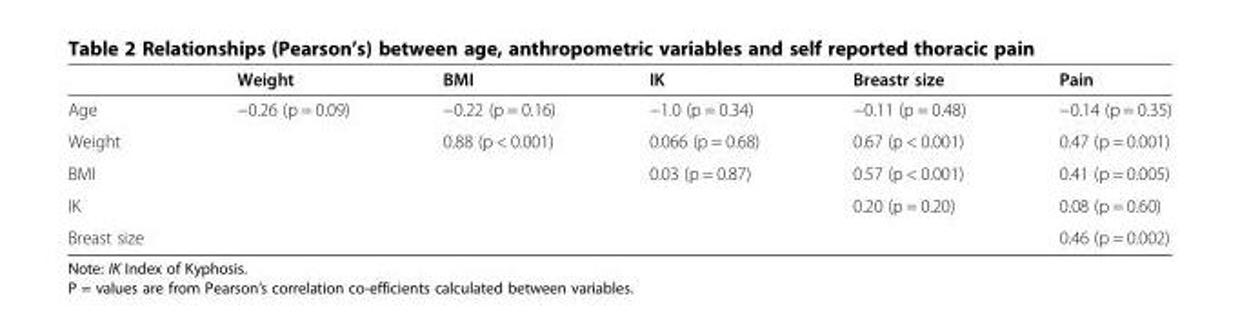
<table><thead><tr><td></td><td>Weight</td><td>BMI</td><td>IK</td><td>Breastr size</td><td>Pain</td></tr></thead><tbody><tr><td>Age</td><td>−0.26 (p = 0.09)</td><td>−0.22 (p = 0.16)</td><td>−1.0 (p = 0.34)</td><td>−0.11 (p = 0.48)</td><td>−0.14 (p = 0.35)</td></tr><tr><td>Weight</td><td></td><td>0.88 (p &lt; 0.001)</td><td>0.066 (p = 0.68)</td><td>0.67 (p &lt; 0.001)</td><td>0.47 (p = 0.001)</td></tr><tr><td>BMI</td><td></td><td></td><td>0.03 (p = 0.87)</td><td>0.57 (p &lt; 0.001)</td><td>0.41 (p = 0.005)</td></tr><tr><td>IK</td><td></td><td></td><td></td><td>0.20 (p = 0.20)</td><td>0.08 (p = 0.60)</td></tr><tr><td>Breast size</td><td></td><td></td><td></td><td></td><td>0.46 (p = 0.002)</td></tr></tbody></table>